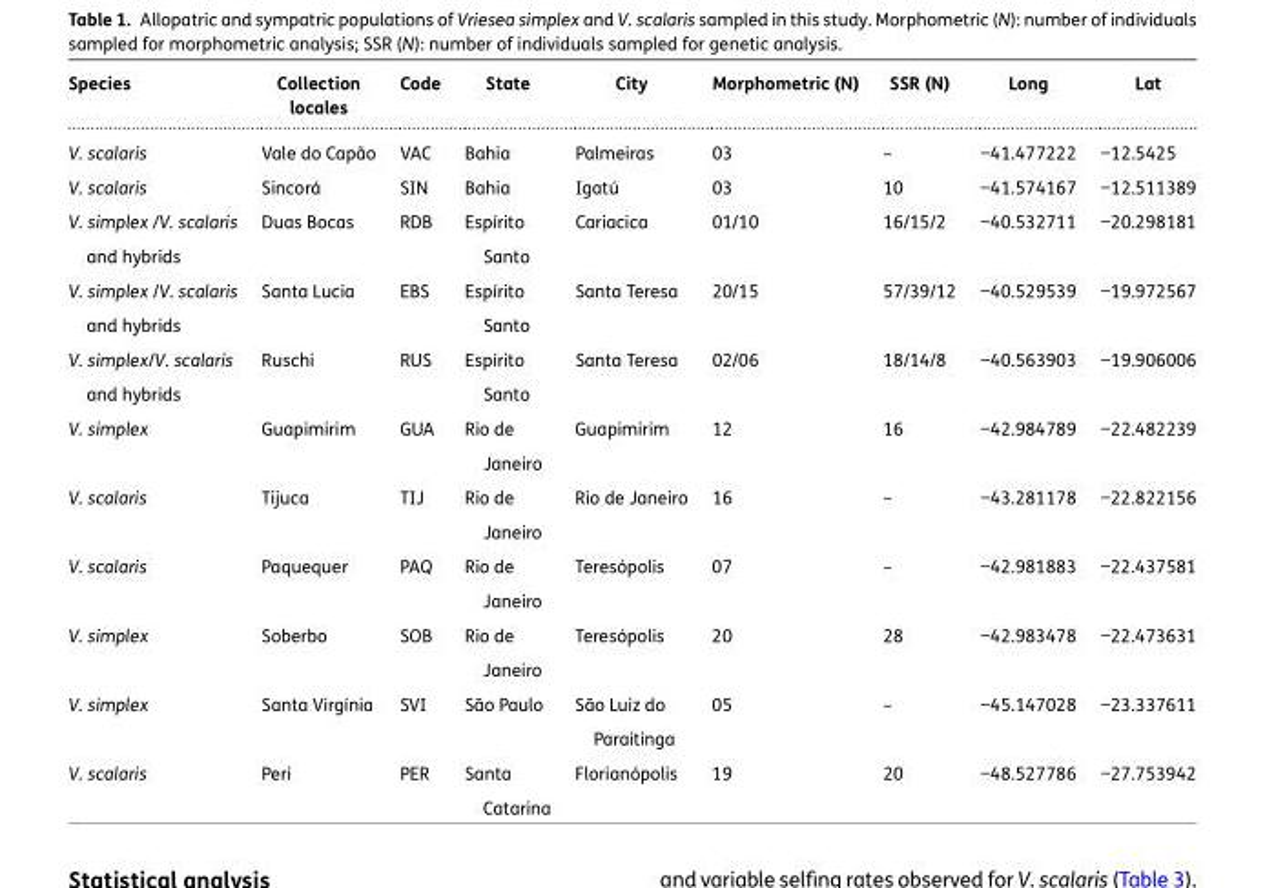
<table><thead><tr><td>Species</td><td>Collection locales</td><td>Code</td><td>State</td><td>City</td><td>Morphometric (N)</td><td>SSR (N)</td><td>Long</td><td>Lat</td></tr></thead><tbody><tr><td>V. scalaris</td><td>Vale do Capão</td><td>VAC</td><td>Bahia</td><td>Palmeiras</td><td>03</td><td>–</td><td>−41.477222</td><td>−12.5425</td></tr><tr><td>V. scalaris</td><td>Sincorá</td><td>SIN</td><td>Bahia</td><td>Igatú</td><td>03</td><td>10</td><td>−41.574167</td><td>−12.511389</td></tr><tr><td>V. simplex /V. scalaris and hybrids</td><td>Duas Bocas</td><td>RDB</td><td>Espírito Santo</td><td>Cariacica</td><td>01/10</td><td>16/15/2</td><td>−40.532711</td><td>−20.298181</td></tr><tr><td>V. simplex /V. scalaris and hybrids</td><td>Santa Lucia</td><td>EBS</td><td>Espírito Santo</td><td>Santa Teresa</td><td>20/15</td><td>57/39/12</td><td>−40.529539</td><td>−19.972567</td></tr><tr><td>V. simplex/V. scalaris and hybrids</td><td>Ruschi</td><td>RUS</td><td>Espírito Santo</td><td>Santa Teresa</td><td>02/06</td><td>18/14/8</td><td>−40.563903</td><td>−19.906006</td></tr><tr><td>V. simplex</td><td>Guapimirim</td><td>GUA</td><td>Rio de Janeiro</td><td>Guapimirim</td><td>12</td><td>16</td><td>−42.984789</td><td>−22.482239</td></tr><tr><td>V. scalaris</td><td>Tijuca</td><td>TIJ</td><td>Rio de Janeiro</td><td>Rio de Janeiro</td><td>16</td><td>–</td><td>−43.281178</td><td>−22.822156</td></tr><tr><td>V. scalaris</td><td>Paquequer</td><td>PAQ</td><td>Rio de Janeiro</td><td>Teresópolis</td><td>07</td><td>–</td><td>−42.981883</td><td>−22.437581</td></tr><tr><td>V. simplex</td><td>Soberbo</td><td>SOB</td><td>Rio de Janeiro</td><td>Teresópolis</td><td>20</td><td>28</td><td>−42.983478</td><td>−22.473631</td></tr><tr><td>V. simplex</td><td>Santa Virgínia</td><td>SVI</td><td>São Paulo</td><td>São Luiz do Paraitinga</td><td>05</td><td>–</td><td>−45.147028</td><td>−23.337611</td></tr><tr><td>V. scalaris</td><td>Peri</td><td>PER</td><td>Santa Catarina</td><td>Florianópolis</td><td>19</td><td>20</td><td>−48.527786</td><td>−27.753942</td></tr></tbody></table>